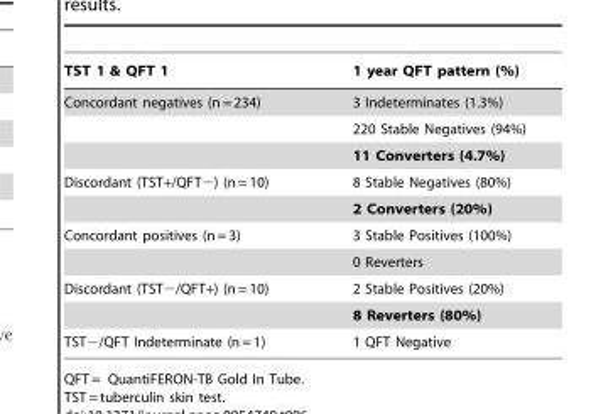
<table><thead><tr><td>TST 1 &amp; QFT 1</td><td>1 year QFT pattern (%)</td></tr></thead><tbody><tr><td rowspan="3">Concordant negatives (n = 234)</td><td>3 Indeterminates (1.3%)</td></tr><tr><td>220 Stable Negatives (94%)</td></tr><tr><td>11 Converters (4.7%)</td></tr><tr><td rowspan="2">Discordant (TST+/QFT−) (n = 10)</td><td>8 Stable Negatives (80%)</td></tr><tr><td>2 Converters (20%)</td></tr><tr><td rowspan="2">Concordant positives (n = 3)</td><td>3 Stable Positives (100%)</td></tr><tr><td>0 Reverters</td></tr><tr><td rowspan="2">Discordant (TST−/QFT+) (n = 10)</td><td>2 Stable Positives (20%)</td></tr><tr><td>8 Reverters (80%)</td></tr><tr><td>TST−/QFT Indeterminate (n = 1)</td><td>1 QFT Negative</td></tr></tbody></table>